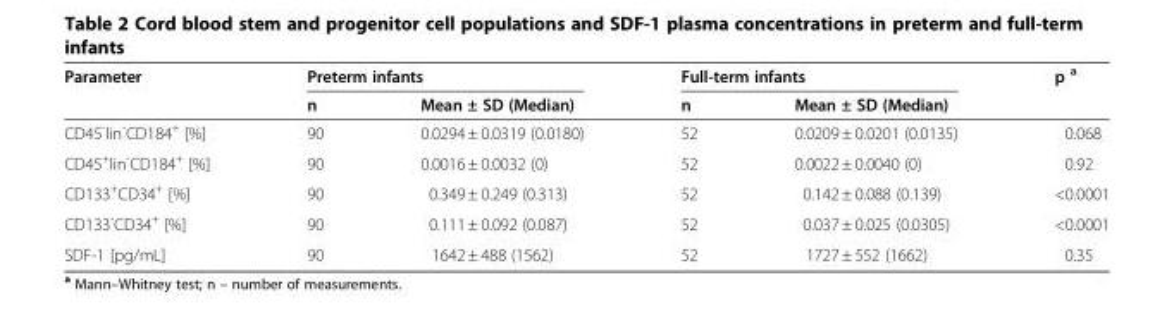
<table><thead><tr><td rowspan="2">Parameter</td><td colspan="2">Preterm infants</td><td colspan="2">Full-term infants</td><td rowspan="2">p <sup>a</sup></td></tr><tr><td>n</td><td>Mean ± SD (Median)</td><td>n</td><td>Mean ± SD (Median)</td></tr></thead><tbody><tr><td>CD45<sup>-</sup>lin<sup>-</sup>CD184<sup>+</sup> [%]</td><td>90</td><td>0.0294 ± 0.0319 (0.0180)</td><td>52</td><td>0.0209 ± 0.0201 (0.0135)</td><td>0.068</td></tr><tr><td>CD45<sup>+</sup>lin<sup>-</sup>CD184<sup>+</sup> [%]</td><td>90</td><td>0.0016 ± 0.0032 (0)</td><td>52</td><td>0.0022 ± 0.0040 (0)</td><td>0.92</td></tr><tr><td>CD133<sup>+</sup>CD34<sup>+</sup> [%]</td><td>90</td><td>0.349 ± 0.249 (0.313)</td><td>52</td><td>0.142 ± 0.088 (0.139)</td><td>&lt;0.0001</td></tr><tr><td>CD133<sup>-</sup>CD34<sup>+</sup> [%]</td><td>90</td><td>0.111 ± 0.092 (0.087)</td><td>52</td><td>0.037 ± 0.025 (0.0305)</td><td>&lt;0.0001</td></tr><tr><td>SDF-1 [pg/mL]</td><td>90</td><td>1642 ± 488 (1562)</td><td>52</td><td>1727 ± 552 (1662)</td><td>0.35</td></tr></tbody></table>